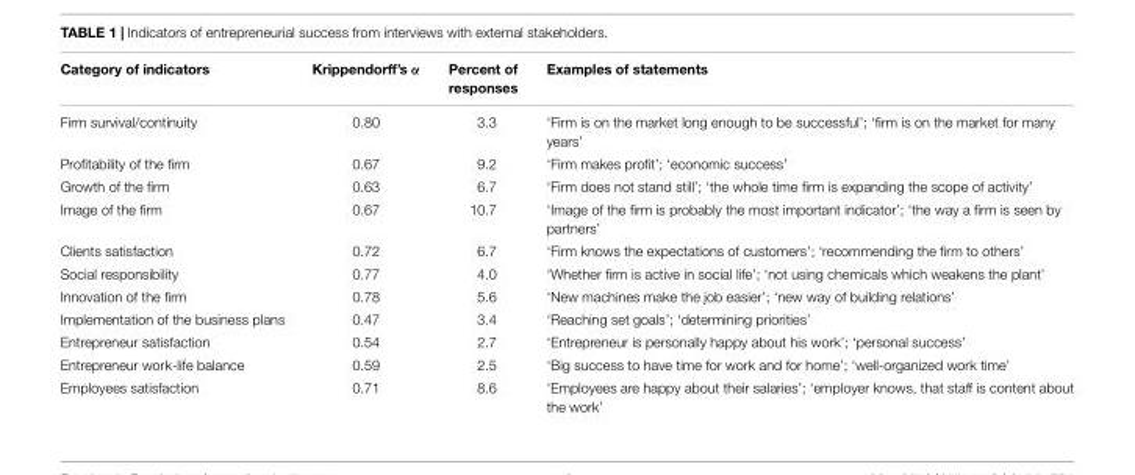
<table><thead><tr><td>Category of indicators</td><td>Krippendorff’s α</td><td>Percent of responses</td><td>Examples of statements</td></tr></thead><tbody><tr><td>Firm survival/continuity</td><td>0.80</td><td>3.3</td><td>‘Firm is on the market long enough to be successful’; ‘firm is on the market for many years’</td></tr><tr><td>Profitability of the firm</td><td>0.67</td><td>9.2</td><td>‘Firm makes profit’; ‘economic success’</td></tr><tr><td>Growth of the firm</td><td>0.63</td><td>6.7</td><td>‘Firm does not stand still’; ‘the whole time firm is expanding the scope of activity’</td></tr><tr><td>Image of the firm</td><td>0.67</td><td>10.7</td><td>‘Image of the firm is probably the most important indicator’; ‘the way a firm is seen by partners’</td></tr><tr><td>Clients satisfaction</td><td>0.72</td><td>6.7</td><td>‘Firm knows the expectations of customers’; ‘recommending the firm to others’</td></tr><tr><td>Social responsibility</td><td>0.77</td><td>4.0</td><td>‘Whether firm is active in social life’; ‘not using chemicals which weakens the plant’</td></tr><tr><td>Innovation of the firm</td><td>0.78</td><td>5.6</td><td>‘New machines make the job easier’; ‘new way of building relations’</td></tr><tr><td>Implementation of the business plans</td><td>0.47</td><td>3.4</td><td>‘Reaching set goals’; ‘determining priorities’</td></tr><tr><td>Entrepreneur satisfaction</td><td>0.54</td><td>2.7</td><td>‘Entrepreneur is personally happy about his work’; ‘personal success’</td></tr><tr><td>Entrepreneur work-life balance</td><td>0.59</td><td>2.5</td><td>‘Big success to have time for work and for home’; ‘well-organized work time’</td></tr><tr><td>Employees satisfaction</td><td>0.71</td><td>8.6</td><td>‘Employees are happy about their salaries’; ‘employer knows, that staff is content about the work’</td></tr></tbody></table>